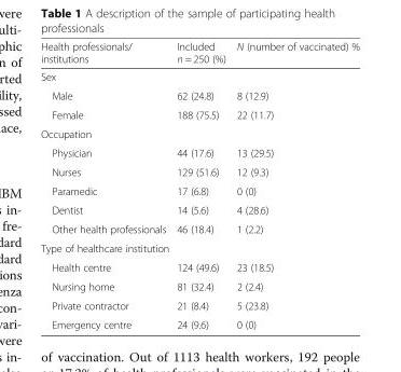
<table><thead><tr><td>Health professionals/ institutions</td><td>Included n = 250 (%)</td><td>N (number of vaccinated) %</td></tr></thead><tbody><tr><td colspan="3">Sex</td></tr><tr><td>Male</td><td>62 (24.8)</td><td>8 (12.9)</td></tr><tr><td>Female</td><td>188 (75.5)</td><td>22 (11.7)</td></tr><tr><td colspan="3">Occupation</td></tr><tr><td>Physician</td><td>44 (17.6)</td><td>13 (29.5)</td></tr><tr><td>Nurses</td><td>129 (51.6)</td><td>12 (9.3)</td></tr><tr><td>Paramedic</td><td>17 (6.8)</td><td>0 (0)</td></tr><tr><td>Dentist</td><td>14 (5.6)</td><td>4 (28.6)</td></tr><tr><td>Other health professionals</td><td>46 (18.4)</td><td>1 (2.2)</td></tr><tr><td colspan="3">Type of healthcare institution</td></tr><tr><td>Health centre</td><td>124 (49.6)</td><td>23 (18.5)</td></tr><tr><td>Nursing home</td><td>81 (32.4)</td><td>2 (2.4)</td></tr><tr><td>Private contractor</td><td>21 (8.4)</td><td>5 (23.8)</td></tr><tr><td>Emergency centre</td><td>24 (9.6)</td><td>0 (0)</td></tr></tbody></table>